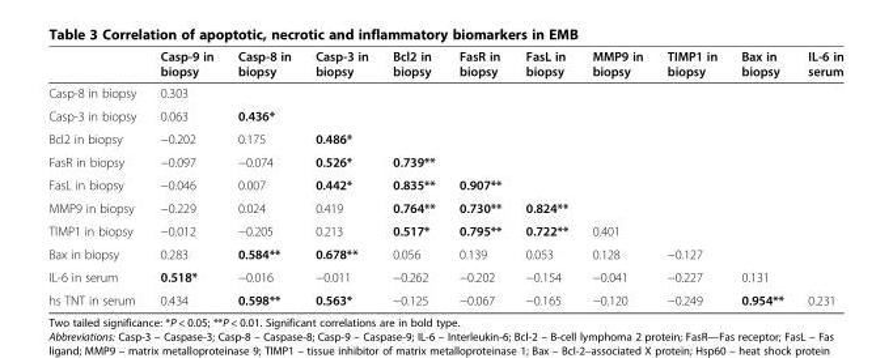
<table><thead><tr><td></td><td>Casp-9 in biopsy</td><td>Casp-8 in biopsy</td><td>Casp-3 in biopsy</td><td>Bcl2 in biopsy</td><td>FasR in biopsy</td><td>FasL in biopsy</td><td>MMP9 in biopsy</td><td>TIMP1 in biopsy</td><td>Bax in biopsy</td><td>IL-6 in serum</td></tr></thead><tbody><tr><td>Casp-8 in biopsy</td><td>0.303</td><td></td><td></td><td></td><td></td><td></td><td></td><td></td><td></td><td></td></tr><tr><td>Casp-3 in biopsy</td><td>0.063</td><td>0.436*</td><td></td><td></td><td></td><td></td><td></td><td></td><td></td><td></td></tr><tr><td>Bcl2 in biopsy</td><td>−0.202</td><td>0.175</td><td>0.486*</td><td></td><td></td><td></td><td></td><td></td><td></td><td></td></tr><tr><td>FasR in biopsy</td><td>−0.097</td><td>−0.074</td><td>0.526*</td><td>0.739**</td><td></td><td></td><td></td><td></td><td></td><td></td></tr><tr><td>FasL in biopsy</td><td>−0.046</td><td>0.007</td><td>0.442*</td><td>0.835**</td><td>0.907**</td><td></td><td></td><td></td><td></td><td></td></tr><tr><td>MMP9 in biopsy</td><td>−0.229</td><td>0.024</td><td>0.419</td><td>0.764**</td><td>0.730**</td><td>0.824**</td><td></td><td></td><td></td><td></td></tr><tr><td>TIMP1 in biopsy</td><td>−0.012</td><td>−0.205</td><td>0.213</td><td>0.517*</td><td>0.795**</td><td>0.722**</td><td>0.401</td><td></td><td></td><td></td></tr><tr><td>Bax in biopsy</td><td>0.283</td><td>0.584**</td><td>0.678**</td><td>0.056</td><td>0.139</td><td>0.053</td><td>0.128</td><td>−0.127</td><td></td><td></td></tr><tr><td>IL-6 in serum</td><td>0.518*</td><td>−0.016</td><td>−0.011</td><td>−0.262</td><td>−0.202</td><td>−0.154</td><td>−0.041</td><td>−0.227</td><td>0.131</td><td></td></tr><tr><td>hs TNT in serum</td><td>0.434</td><td>0.598**</td><td>0.563*</td><td>−0.125</td><td>−0.067</td><td>−0.165</td><td>−0.120</td><td>−0.249</td><td>0.954**</td><td>0.231</td></tr></tbody></table>